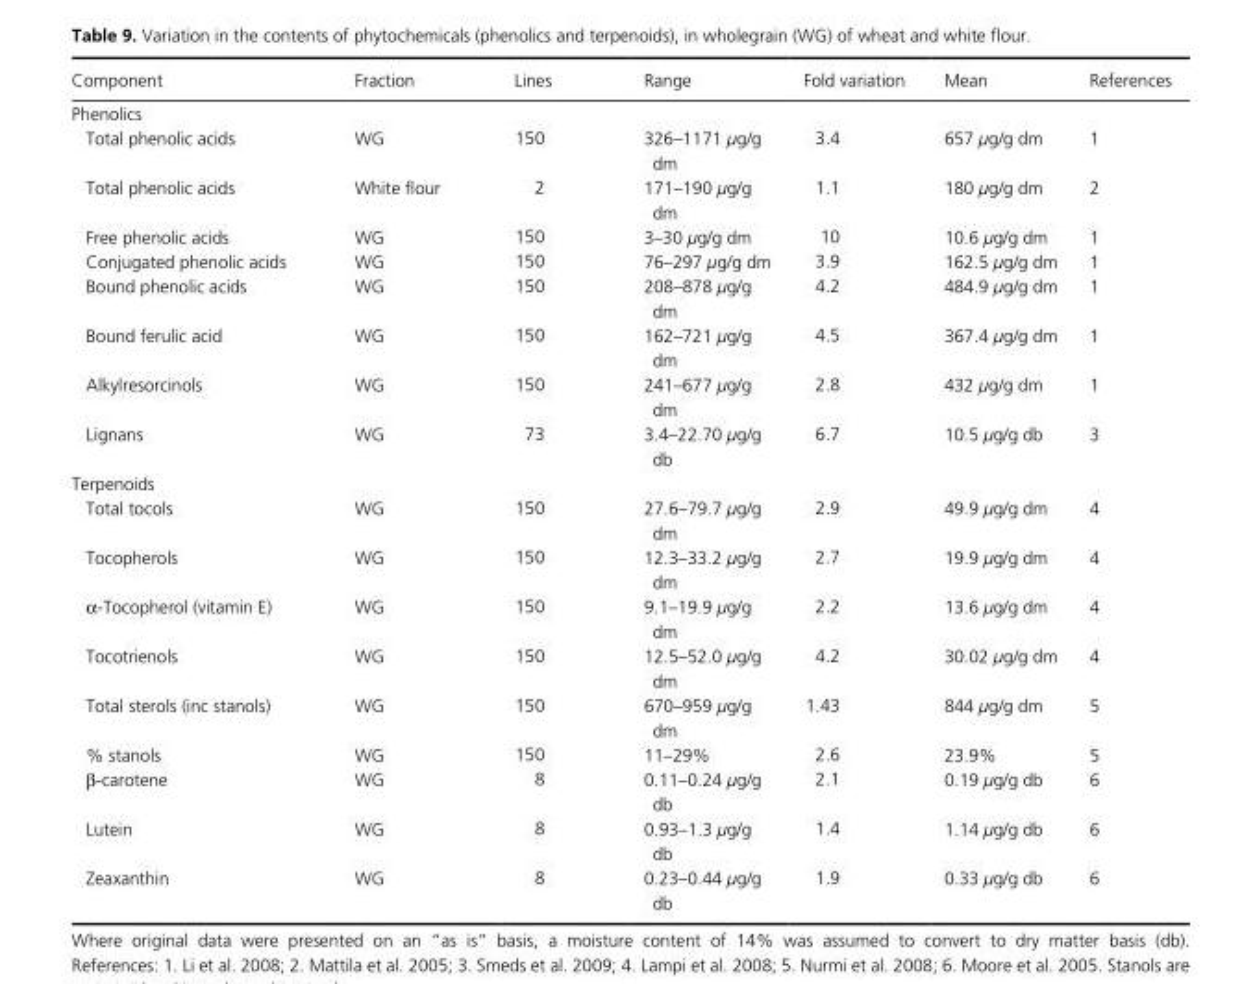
<table><thead><tr><td>Component</td><td>Fraction</td><td>Lines</td><td>Range</td><td>Fold variation</td><td>Mean</td><td>References</td></tr></thead><tbody><tr><td colspan="7">Phenolics</td></tr><tr><td>Total phenolic acids</td><td>WG</td><td>150</td><td>326–1171 μg/g dm</td><td>3.4</td><td>657 μg/g dm</td><td>1</td></tr><tr><td>Total phenolic acids</td><td>White flour</td><td>2</td><td>171–190 μg/g dm</td><td>1.1</td><td>180 μg/g dm</td><td>2</td></tr><tr><td>Free phenolic acids</td><td>WG</td><td>150</td><td>3–30 μg/g dm</td><td>10</td><td>10.6 μg/g dm</td><td>1</td></tr><tr><td>Conjugated phenolic acids</td><td>WG</td><td>150</td><td>76–297 μg/g dm</td><td>3.9</td><td>162.5 μg/g dm</td><td>1</td></tr><tr><td>Bound phenolic acids</td><td>WG</td><td>150</td><td>208–878 μg/g dm</td><td>4.2</td><td>484.9 μg/g dm</td><td>1</td></tr><tr><td>Bound ferulic acid</td><td>WG</td><td>150</td><td>162–721 μg/g dm</td><td>4.5</td><td>367.4 μg/g dm</td><td>1</td></tr><tr><td>Alkylresorcinols</td><td>WG</td><td>150</td><td>241–677 μg/g dm</td><td>2.8</td><td>432 μg/g dm</td><td>1</td></tr><tr><td>Lignans</td><td>WG</td><td>73</td><td>3.4–22.70 μg/g db</td><td>6.7</td><td>10.5 μg/g db</td><td>3</td></tr><tr><td colspan="7">Terpenoids</td></tr><tr><td>Total tocols</td><td>WG</td><td>150</td><td>27.6–79.7 μg/g dm</td><td>2.9</td><td>49.9 μg/g dm</td><td>4</td></tr><tr><td>Tocopherols</td><td>WG</td><td>150</td><td>12.3–33.2 μg/g dm</td><td>2.7</td><td>19.9 μg/g dm</td><td>4</td></tr><tr><td>α- Tocopherol (vitamin E)</td><td>WG</td><td>150</td><td>9.1–19.9 μg/g dm</td><td>2.2</td><td>13.6 μg/g dm</td><td>4</td></tr><tr><td>Tocotrienols</td><td>WG</td><td>150</td><td>12.5–52.0 μg/g dm</td><td>4.2</td><td>30.02 μg/g dm</td><td>4</td></tr><tr><td>Total sterols (inc stanols)</td><td>WG</td><td>150</td><td>670–959 μg/g dm</td><td>1.43</td><td>844 μg/g dm</td><td>5</td></tr><tr><td>% stanols</td><td>WG</td><td>150</td><td>11–29%</td><td>2.6</td><td>23.9%</td><td>5</td></tr><tr><td>β- carotene</td><td>WG</td><td>8</td><td>0.11–0.24 μg/g db</td><td>2.1</td><td>0.19 μg/g db</td><td>6</td></tr><tr><td>Lutein</td><td>WG</td><td>8</td><td>0.93–1.3 μg/g db</td><td>1.4</td><td>1.14 μg/g db</td><td>6</td></tr><tr><td>Zeaxanthin</td><td>WG</td><td>8</td><td>0.23–0.44 μg/g db</td><td>1.9</td><td>0.33 μg/g db</td><td>6</td></tr></tbody></table>